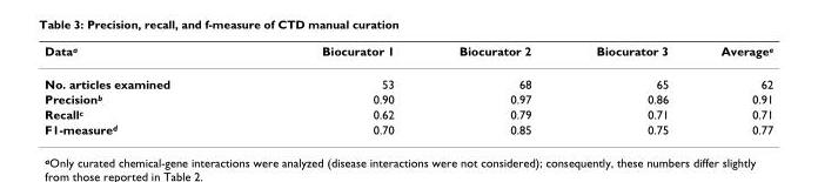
<table><thead><tr><td>Data<sup>a</sup></td><td>Biocurator 1</td><td>Biocurator 2</td><td>Biocurator 3</td><td>Average<sup>e</sup></td></tr></thead><tbody><tr><td>No. articles examined</td><td>53</td><td>68</td><td>65</td><td>62</td></tr><tr><td>Precision<sup>b</sup></td><td>0.90</td><td>0.97</td><td>0.86</td><td>0.91</td></tr><tr><td>Recall<sup>c</sup></td><td>0.62</td><td>0.79</td><td>0.71</td><td>0.71</td></tr><tr><td>F1-measure<sup>d</sup></td><td>0.70</td><td>0.85</td><td>0.75</td><td>0.77</td></tr></tbody></table>